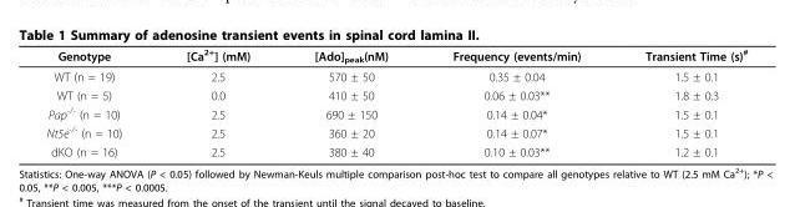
<table><thead><tr><td>Genotype</td><td>[Ca<sup>2+</sup>] (mM)</td><td>[Ado]<sub>peak</sub>(nM)</td><td>Frequency (events/min)</td><td>Transient Time (s)<sup>#</sup></td></tr></thead><tbody><tr><td>WT (n = 19)</td><td>2.5</td><td>570 ± 50</td><td>0.35 ± 0.04</td><td>1.5 ± 0.1</td></tr><tr><td>WT (n = 5)</td><td>0.0</td><td>410 ± 50</td><td>0.06 ± 0.03**</td><td>1.8 ± 0.3</td></tr><tr><td>Pap<sup>-/-</sup> (n = 10)</td><td>2.5</td><td>690 ± 150</td><td>0.14 ± 0.04*</td><td>1.5 ± 0.1</td></tr><tr><td>Nt5e<sup>-/-</sup> (n = 10)</td><td>2.5</td><td>360 ± 20</td><td>0.14 ± 0.07*</td><td>1.5 ± 0.1</td></tr><tr><td>dKO (n = 16)</td><td>2.5</td><td>380 ± 40</td><td>0.10 ± 0.03**</td><td>1.2 ± 0.1</td></tr></tbody></table>